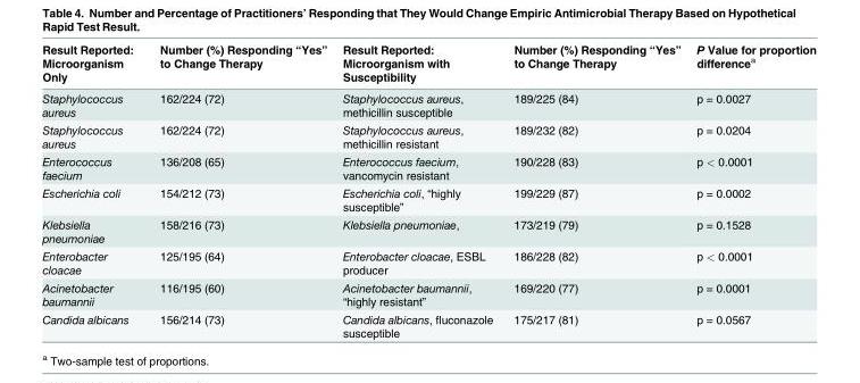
<table><thead><tr><td rowspan="2">Result Reported: Microorganism Only</td><td rowspan="2">Number (%) Responding “Yes” to Change Therapy</td><td rowspan="2">Result Reported: Microorganism with Susceptibility</td><td rowspan="2">Number (%) Responding “Yes” to Change Therapy</td><td rowspan="2">P Value for proportion difference<sup>a</sup></td></tr><tr></tr></thead><tbody><tr><td>Staphylococcus aureus</td><td>162/224 (72)</td><td>Staphylococcus aureus, methicillin susceptible</td><td>189/225 (84)</td><td>p = 0.0027</td></tr><tr><td>Staphylococcus aureus</td><td>162/224 (72)</td><td>Staphylococcus aureus, methicillin resistant</td><td>189/232 (82)</td><td>p = 0.0204</td></tr><tr><td>Enterococcus faecium</td><td>136/208 (65)</td><td>Enterococcus faecium, vancomycin resistant</td><td>190/228 (83)</td><td>p &lt; 0.0001</td></tr><tr><td>Escherichia coli</td><td>154/212 (73)</td><td>Escherichia coli, “highly susceptible”</td><td>199/229 (87)</td><td>p = 0.0002</td></tr><tr><td>Klebsiella pneumoniae</td><td>158/216 (73)</td><td>Klebsiella pneumoniae,</td><td>173/219 (79)</td><td>p = 0.1528</td></tr><tr><td>Enterobacter cloacae</td><td>125/195 (64)</td><td>Enterobacter cloacae, ESBL producer</td><td>186/228 (82)</td><td>p &lt; 0.0001</td></tr><tr><td>Acinetobacter baumannii</td><td>116/195 (60)</td><td>Acinetobacter baumannii, “highly resistant”</td><td>169/220 (77)</td><td>p = 0.0001</td></tr><tr><td>Candida albicans</td><td>156/214 (73)</td><td>Candida albicans, fluconazole susceptible</td><td>175/217 (81)</td><td>p = 0.0567</td></tr></tbody></table>